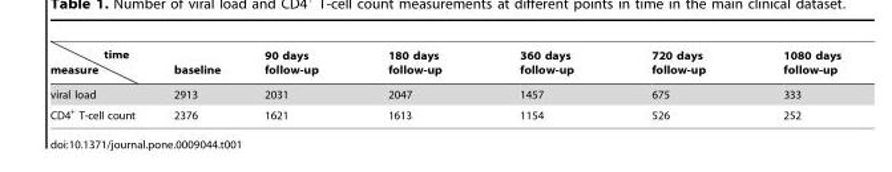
<table><thead><tr><td>time measure</td><td>baseline</td><td>90 days follow-up</td><td>180 days follow-up</td><td>360 days follow-up</td><td>720 days follow-up</td><td>1080 days follow-up</td></tr></thead><tbody><tr><td>viral load</td><td>2913</td><td>2031</td><td>2047</td><td>1457</td><td>675</td><td>333</td></tr><tr><td>CD4<sup>+</sup> T-cell count</td><td>2376</td><td>1621</td><td>1613</td><td>1154</td><td>526</td><td>252</td></tr></tbody></table>